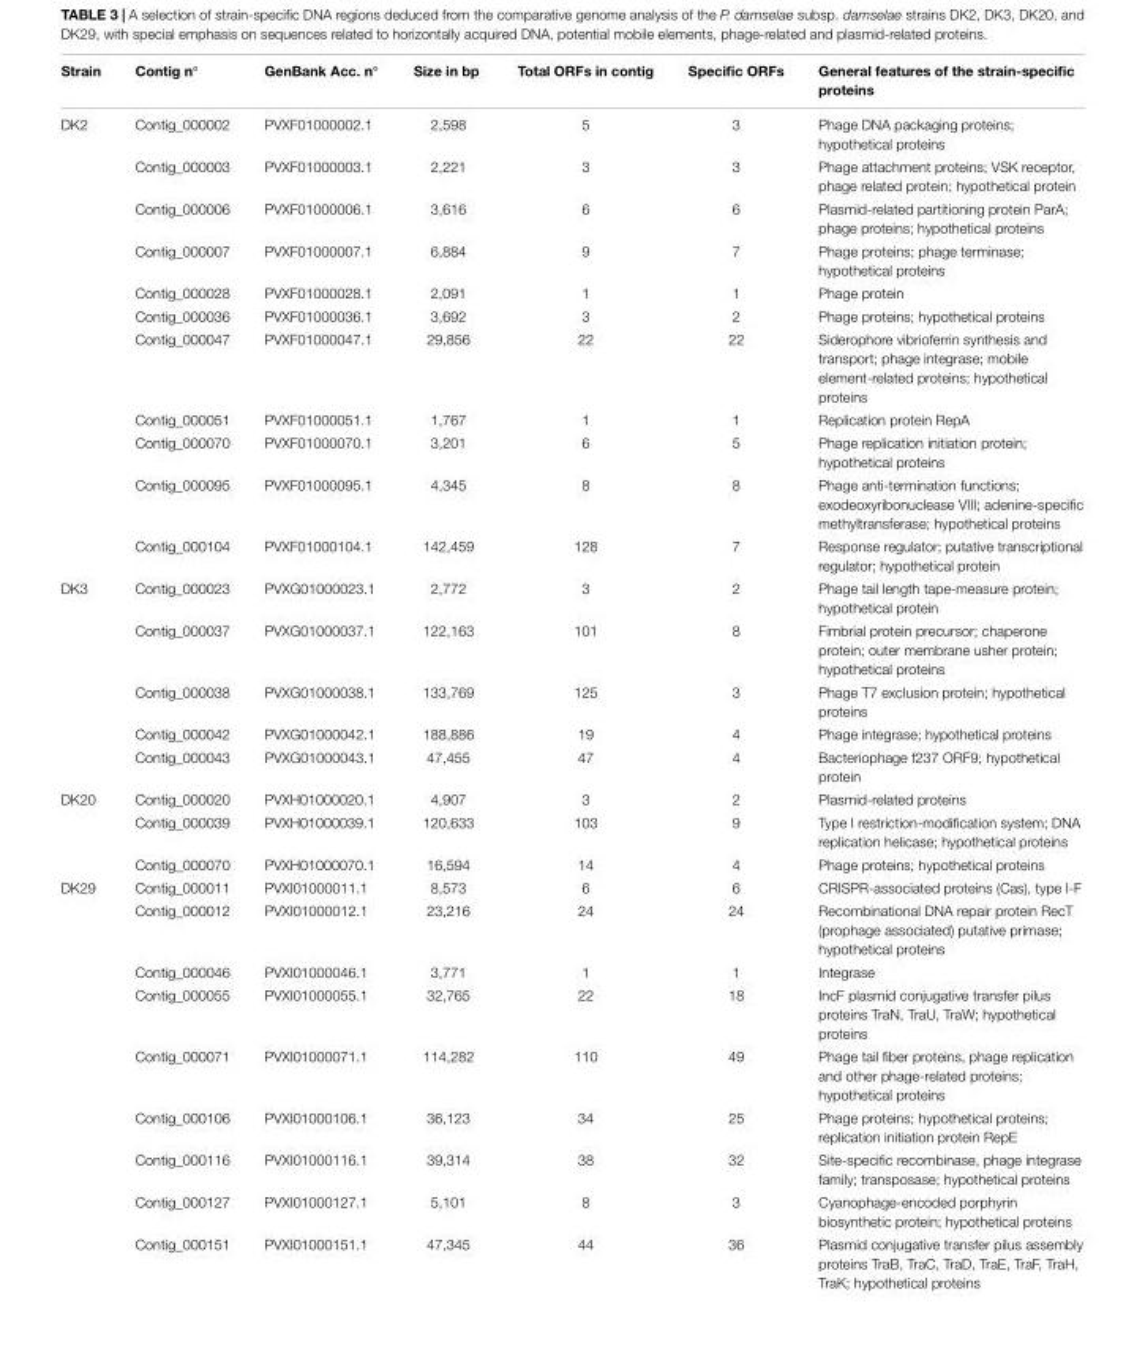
<table><thead><tr><td>Strain</td><td>Contig n◦</td><td>GenBank Acc. n◦</td><td>Size in bp</td><td>Total ORFs in contig</td><td>Specific ORFs</td><td>General features of the strain-specific proteins</td></tr></thead><tbody><tr><td rowspan="11">DK2</td><td>Contig_000002</td><td>PVXF01000002.1</td><td>2,598</td><td>5</td><td>3</td><td>Phage DNA packaging proteins; hypothetical proteins</td></tr><tr><td>Contig_000003</td><td>PVXF01000003.1</td><td>2,221</td><td>3</td><td>3</td><td>Phage attachment proteins; VSK receptor, phage related protein; hypothetical protein</td></tr><tr><td>Contig_000006</td><td>PVXF01000006.1</td><td>3,616</td><td>6</td><td>6</td><td>Plasmid-related partitioning protein ParA; phage proteins; hypothetical proteins</td></tr><tr><td>Contig_000007</td><td>PVXF01000007.1</td><td>6,884</td><td>9</td><td>7</td><td>Phage proteins; phage terminase; hypothetical proteins</td></tr><tr><td>Contig_000028</td><td>PVXF01000028.1</td><td>2,091</td><td>1</td><td>1</td><td>Phage protein</td></tr><tr><td>Contig_000036</td><td>PVXF01000036.1</td><td>3,692</td><td>3</td><td>2</td><td>Phage proteins; hypothetical proteins</td></tr><tr><td>Contig_000047</td><td>PVXF01000047.1</td><td>29,856</td><td>22</td><td>22</td><td>Siderophore vibrioferrin synthesis and transport; phage integrase; mobile element-related proteins; hypothetical proteins</td></tr><tr><td>Contig_000051</td><td>PVXF01000051.1</td><td>1,767</td><td>1</td><td>1</td><td>Replication protein RepA</td></tr><tr><td>Contig_000070</td><td>PVXF01000070.1</td><td>3,201</td><td>6</td><td>5</td><td>Phage replication initiation protein; hypothetical proteins</td></tr><tr><td>Contig_000095</td><td>PVXF01000095.1</td><td>4,345</td><td>8</td><td>8</td><td>Phage anti-termination functions; exodeoxyribonuclease VIII; adenine-specific methyltransferase; hypothetical proteins</td></tr><tr><td>Contig_000104</td><td>PVXF01000104.1</td><td>142,459</td><td>128</td><td>7</td><td>Response regulator; putative transcriptional regulator; hypothetical protein</td></tr><tr><td rowspan="5">DK3</td><td>Contig_000023</td><td>PVXG01000023.1</td><td>2,772</td><td>3</td><td>2</td><td>Phage tail length tape-measure protein; hypothetical protein</td></tr><tr><td>Contig_000037</td><td>PVXG01000037.1</td><td>122,163</td><td>101</td><td>8</td><td>Fimbrial protein precursor; chaperone protein; outer membrane usher protein; hypothetical proteins</td></tr><tr><td>Contig_000038</td><td>PVXG01000038.1</td><td>133,769</td><td>125</td><td>3</td><td>Phage T7 exclusion protein; hypothetical proteins</td></tr><tr><td>Contig_000042</td><td>PVXG01000042.1</td><td>188,886</td><td>19</td><td>4</td><td>Phage integrase; hypothetical proteins</td></tr><tr><td>Contig_000043</td><td>PVXG01000043.1</td><td>47,455</td><td>47</td><td>4</td><td>Bacteriophage f237 ORF9; hypothetical protein</td></tr><tr><td rowspan="3">DK20</td><td>Contig_000020</td><td>PVXH01000020.1</td><td>4,907</td><td>3</td><td>2</td><td>Plasmid-related proteins</td></tr><tr><td>Contig_000039</td><td>PVXH01000039.1</td><td>120,633</td><td>103</td><td>9</td><td>Type I restriction-modification system; DNA replication helicase; hypothetical proteins</td></tr><tr><td>Contig_000070</td><td>PVXH01000070.1</td><td>16,594</td><td>14</td><td>4</td><td>Phage proteins; hypothetical proteins</td></tr><tr><td rowspan="9">DK29</td><td>Contig_000011</td><td>PVXI01000011.1</td><td>8,573</td><td>6</td><td>6</td><td>CRISPR-associated proteins (Cas), type I-F</td></tr><tr><td>Contig_000012</td><td>PVXI01000012.1</td><td>23,216</td><td>24</td><td>24</td><td>Recombinational DNA repair protein RecT (prophage associated) putative primase; hypothetical proteins</td></tr><tr><td>Contig_000046</td><td>PVXI01000046.1</td><td>3,771</td><td>1</td><td>1</td><td>Integrase</td></tr><tr><td>Contig_000055</td><td>PVXI01000055.1</td><td>32,765</td><td>22</td><td>18</td><td>IncF plasmid conjugative transfer pilus proteins TraN, TraU, TraW; hypothetical proteins</td></tr><tr><td>Contig_000071</td><td>PVXI01000071.1</td><td>114,282</td><td>110</td><td>49</td><td>Phage tail fiber proteins, phage replication and other phage-related proteins; hypothetical proteins</td></tr><tr><td>Contig_000106</td><td>PVXI01000106.1</td><td>36,123</td><td>34</td><td>25</td><td>Phage proteins; hypothetical proteins; replication initiation protein RepE</td></tr><tr><td>Contig_000116</td><td>PVXI01000116.1</td><td>39,314</td><td>38</td><td>32</td><td>Site-specific recombinase, phage integrase family; transposase; hypothetical proteins</td></tr><tr><td>Contig_000127</td><td>PVXI01000127.1</td><td>5,101</td><td>8</td><td>3</td><td>Cyanophage-encoded porphyrin biosynthetic protein; hypothetical proteins</td></tr><tr><td>Contig_000151</td><td>PVXI01000151.1</td><td>47,345</td><td>44</td><td>36</td><td>Plasmid conjugative transfer pilus assembly proteins TraB, TraC, TraD, TraE, TraF, TraH, TraK; hypothetical proteins</td></tr></tbody></table>